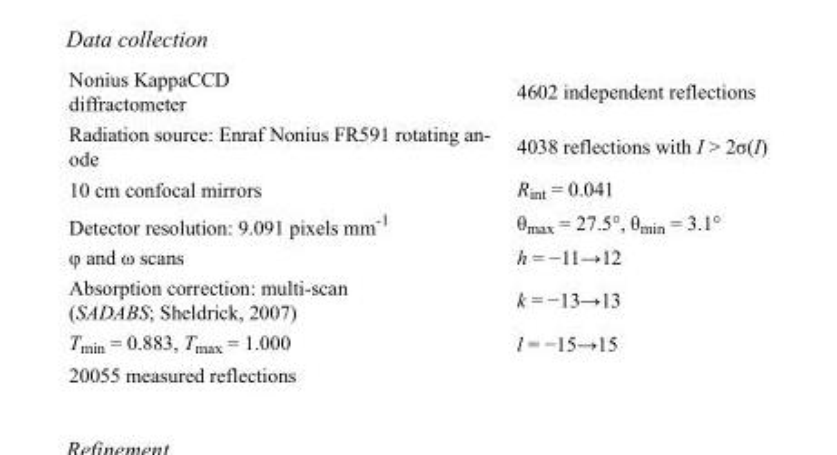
<table><tbody><tr><td>Nonius KappaCCD diffractometer</td><td>4602 independent reflections</td></tr><tr><td>Radiation source: Enraf Nonius FR591 rotating an- ode</td><td>4038 reflections with I &gt; 2σ(I)</td></tr><tr><td>10 cm confocal mirrors</td><td>R<sub>int</sub> = 0.041</td></tr><tr><td>Detector resolution: 9.091 pixels mm<sup>-1</sup></td><td>θ<sub>max</sub> = 27.5°, θ<sub>min</sub> = 3.1°</td></tr><tr><td>φ and ω scans</td><td>h = −11→12</td></tr><tr><td>Absorption correction: multi-scan (SADABS; Sheldrick, 2007)</td><td>k = −13→13</td></tr><tr><td>T<sub>min</sub> = 0.883, T<sub>max</sub> = 1.000</td><td>l = −15→15</td></tr><tr><td>20055 measured reflections</td><td></td></tr></tbody></table>